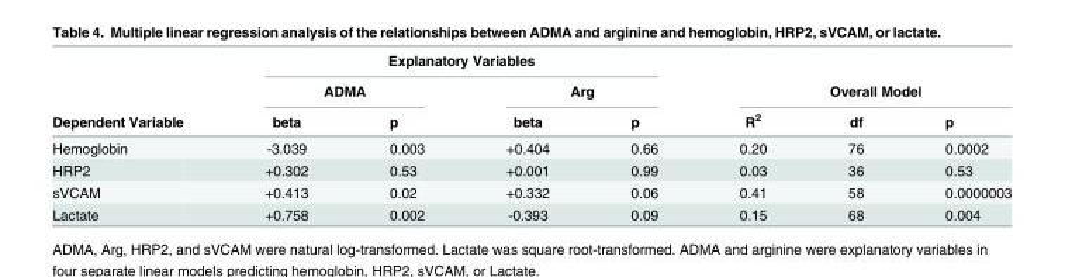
<table><thead><tr><td rowspan="3">Dependent Variable</td><td colspan="4">Explanatory Variables</td><td></td><td></td><td></td></tr><tr><td colspan="2">ADMA</td><td colspan="2">Arg</td><td colspan="3">Overall Model</td></tr><tr><td>beta</td><td>p</td><td>beta</td><td>p</td><td>R<sup>2</sup></td><td>df</td><td>p</td></tr></thead><tbody><tr><td>Hemoglobin</td><td>-3.039</td><td>0.003</td><td>+0.404</td><td>0.66</td><td>0.20</td><td>76</td><td>0.0002</td></tr><tr><td>HRP2</td><td>+0.302</td><td>0.53</td><td>+0.001</td><td>0.99</td><td>0.03</td><td>36</td><td>0.53</td></tr><tr><td>sVCAM</td><td>+0.413</td><td>0.02</td><td>+0.332</td><td>0.06</td><td>0.41</td><td>58</td><td>0.0000003</td></tr><tr><td>Lactate</td><td>+0.758</td><td>0.002</td><td>-0.393</td><td>0.09</td><td>0.15</td><td>68</td><td>0.004</td></tr></tbody></table>